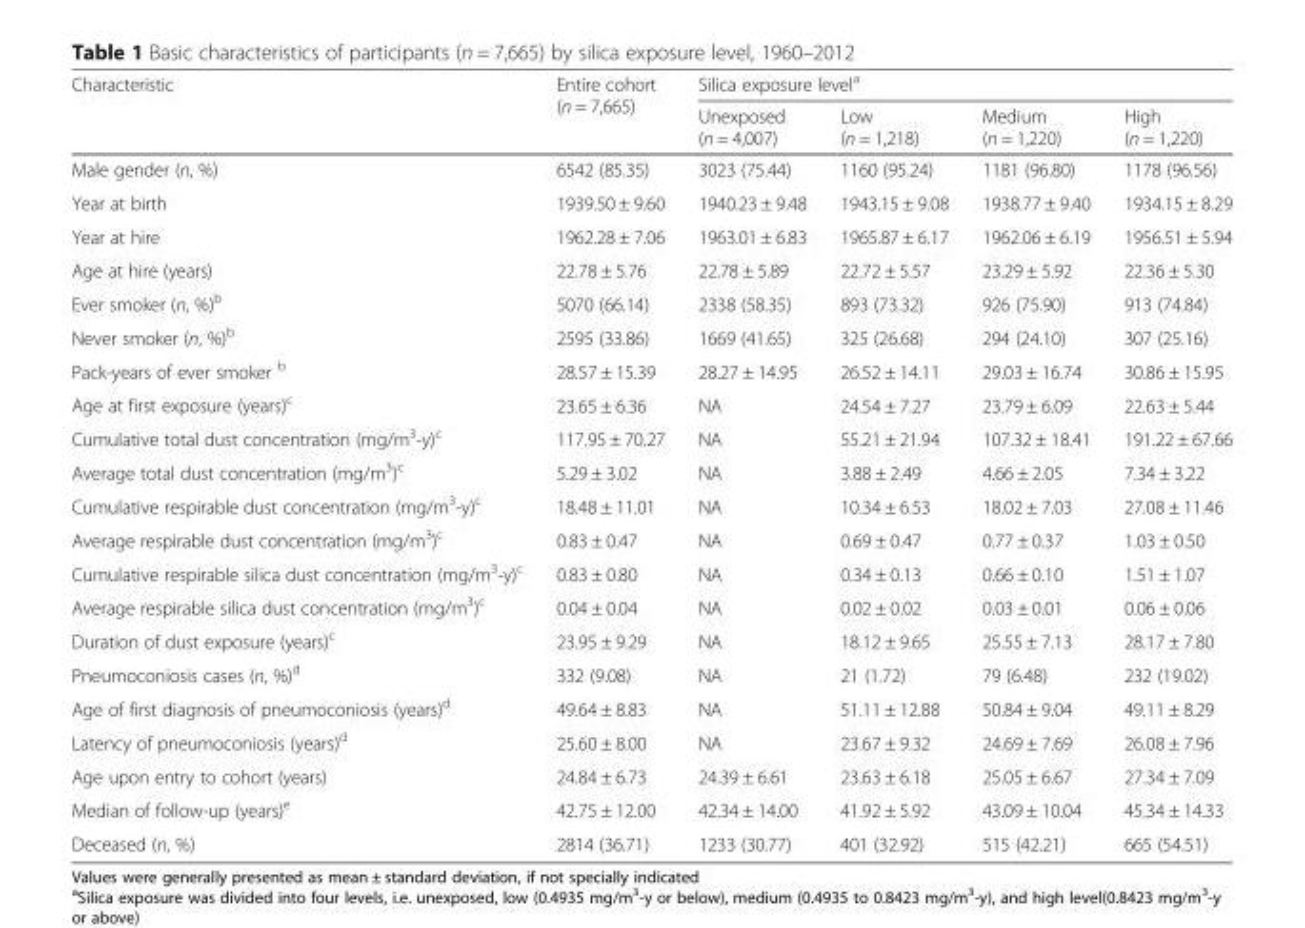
<table><thead><tr><td rowspan="2">Characteristic</td><td rowspan="2">Entire cohort (n = 7,665)</td><td colspan="4">Silica exposure level<sup>a</sup></td></tr><tr><td>Unexposed (n = 4,007)</td><td>Low (n = 1,218)</td><td>Medium (n = 1,220)</td><td>High (n = 1,220)</td></tr></thead><tbody><tr><td>Male gender (n, %)</td><td>6542 (85.35)</td><td>3023 (75.44)</td><td>1160 (95.24)</td><td>1181 (96.80)</td><td>1178 (96.56)</td></tr><tr><td>Year at birth</td><td>1939.50 ± 9.60</td><td>1940.23 ± 9.48</td><td>1943.15 ± 9.08</td><td>1938.77 ± 9.40</td><td>1934.15 ± 8.29</td></tr><tr><td>Year at hire</td><td>1962.28 ± 7.06</td><td>1963.01 ± 6.83</td><td>1965.87 ± 6.17</td><td>1962.06 ± 6.19</td><td>1956.51 ± 5.94</td></tr><tr><td>Age at hire (years)</td><td>22.78 ± 5.76</td><td>22.78 ± 5.89</td><td>22.72 ± 5.57</td><td>23.29 ± 5.92</td><td>22.36 ± 5.30</td></tr><tr><td>Ever smoker (n, %)<sup>b</sup></td><td>5070 (66.14)</td><td>2338 (58.35)</td><td>893 (73.32)</td><td>926 (75.90)</td><td>913 (74.84)</td></tr><tr><td>Never smoker (n, %)<sup>b</sup></td><td>2595 (33.86)</td><td>1669 (41.65)</td><td>325 (26.68)</td><td>294 (24.10)</td><td>307 (25.16)</td></tr><tr><td>Pack-years of ever smoker <sup>b</sup></td><td>28.57 ± 15.39</td><td>28.27 ± 14.95</td><td>26.52 ± 14.11</td><td>29.03 ± 16.74</td><td>30.86 ± 15.95</td></tr><tr><td>Age at first exposure (years)<sup>c</sup></td><td>23.65 ± 6.36</td><td>NA</td><td>24.54 ± 7.27</td><td>23.79 ± 6.09</td><td>22.63 ± 5.44</td></tr><tr><td>Cumulative total dust concentration (mg/m<sup>3</sup>-y)<sup>c</sup></td><td>117.95 ± 70.27</td><td>NA</td><td>55.21 ± 21.94</td><td>107.32 ± 18.41</td><td>191.22 ± 67.66</td></tr><tr><td>Average total dust concentration (mg/m<sup>3</sup>)<sup>c</sup></td><td>5.29 ± 3.02</td><td>NA</td><td>3.88 ± 2.49</td><td>4.66 ± 2.05</td><td>7.34 ± 3.22</td></tr><tr><td>Cumulative respirable dust concentration (mg/m<sup>3</sup>-y)<sup>c</sup></td><td>18.48 ± 11.01</td><td>NA</td><td>10.34 ± 6.53</td><td>18.02 ± 7.03</td><td>27.08 ± 11.46</td></tr><tr><td>Average respirable dust concentration (mg/m<sup>3</sup>)<sup>c</sup></td><td>0.83 ± 0.47</td><td>NA</td><td>0.69 ± 0.47</td><td>0.77 ± 0.37</td><td>1.03 ± 0.50</td></tr><tr><td>Cumulative respirable silica dust concentration (mg/m<sup>3</sup>-y)<sup>c</sup></td><td>0.83 ± 0.80</td><td>NA</td><td>0.34 ± 0.13</td><td>0.66 ± 0.10</td><td>1.51 ± 1.07</td></tr><tr><td>Average respirable silica dust concentration (mg/m<sup>3</sup>)<sup>c</sup></td><td>0.04 ± 0.04</td><td>NA</td><td>0.02 ± 0.02</td><td>0.03 ± 0.01</td><td>0.06 ± 0.06</td></tr><tr><td>Duration of dust exposure (years)<sup>c</sup></td><td>23.95 ± 9.29</td><td>NA</td><td>18.12 ± 9.65</td><td>25.55 ± 7.13</td><td>28.17 ± 7.80</td></tr><tr><td>Pneumoconiosis cases (n, %)<sup>d</sup></td><td>332 (9.08)</td><td>NA</td><td>21 (1.72)</td><td>79 (6.48)</td><td>232 (19.02)</td></tr><tr><td>Age of first diagnosis of pneumoconiosis (years)<sup>d</sup></td><td>49.64 ± 8.83</td><td>NA</td><td>51.11 ± 12.88</td><td>50.84 ± 9.04</td><td>49.11 ± 8.29</td></tr><tr><td>Latency of pneumoconiosis (years)<sup>d</sup></td><td>25.60 ± 8.00</td><td>NA</td><td>23.67 ± 9.32</td><td>24.69 ± 7.69</td><td>26.08 ± 7.96</td></tr><tr><td>Age upon entry to cohort (years)</td><td>24.84 ± 6.73</td><td>24.39 ± 6.61</td><td>23.63 ± 6.18</td><td>25.05 ± 6.67</td><td>27.34 ± 7.09</td></tr><tr><td>Median of follow-up (years)<sup>e</sup></td><td>42.75 ± 12.00</td><td>42.34 ± 14.00</td><td>41.92 ± 5.92</td><td>43.09 ± 10.04</td><td>45.34 ± 14.33</td></tr><tr><td>Deceased (n, %)</td><td>2814 (36.71)</td><td>1233 (30.77)</td><td>401 (32.92)</td><td>515 (42.21)</td><td>665 (54.51)</td></tr></tbody></table>